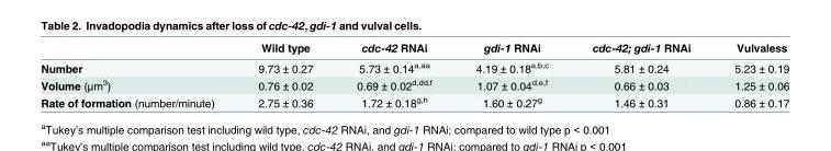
<table><thead><tr><td></td><td>Wild type</td><td>cdc-42 RNAi</td><td>gdi-1 RNAi</td><td>cdc-42; gdi-1 RNAi</td><td>Vulvaless</td></tr></thead><tbody><tr><td>Number</td><td>9.73 ± 0.27</td><td>5.73 ± 0.14<sup>a,aa</sup></td><td>4.19 ± 0.18<sup>a,b,c</sup></td><td>5.81 ± 0.24</td><td>5.23 ± 0.19</td></tr><tr><td>Volume (μm<sup>3</sup>)</td><td>0.76 ± 0.02</td><td>0.69 ± 0.02<sup>d,dd,f</sup></td><td>1.07 ± 0.04<sup>d,e,f</sup></td><td>0.66 ± 0.03</td><td>1.25 ± 0.06</td></tr><tr><td>Rate of formation (number/minute)</td><td>2.75 ± 0.36</td><td>1.72 ± 0.18<sup>g,h</sup></td><td>1.60 ± 0.27<sup>g</sup></td><td>1.46 ± 0.31</td><td>0.86 ± 0.17</td></tr></tbody></table>